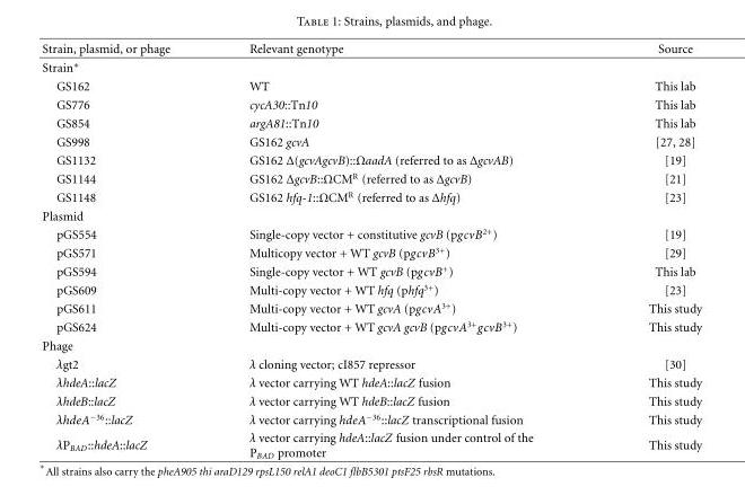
<table><thead><tr><td>Strain, plasmid, or phage</td><td>Relevant genotype</td><td>Source</td></tr></thead><tbody><tr><td colspan="3">Strain∗</td></tr><tr><td>GS162</td><td>WT</td><td>This lab</td></tr><tr><td>GS776</td><td>cycA30::Tn10</td><td>This lab</td></tr><tr><td>GS854</td><td>argA81::Tn10</td><td>This lab</td></tr><tr><td>GS998</td><td>GS162 gcvA</td><td>[27, 28]</td></tr><tr><td>GS1132</td><td>GS162 Δ(gcvAgcvB)::ΩaadA (referred to as ΔgcvAB)</td><td>[19]</td></tr><tr><td>GS1144</td><td>GS162 ΔgcvB::ΩCM<sup>R</sup> (referred to as ΔgcvB)</td><td>[21]</td></tr><tr><td>GS1148</td><td>GS162 hfq-1::ΩCM<sup>R</sup> (referred to as Δhfq)</td><td>[23]</td></tr><tr><td colspan="3">Plasmid</td></tr><tr><td>pGS554</td><td>Single-copy vector + constitutive gcvB (pgcvB<sup>2+</sup>)</td><td>[19]</td></tr><tr><td>pGS571</td><td>Multicopy vector + WT gcvB (pgcvB<sup>3+</sup>)</td><td>[29]</td></tr><tr><td>pGS594</td><td>Single-copy vector + WT gcvB (pgcvB<sup>+</sup>)</td><td>This lab</td></tr><tr><td>pGS609</td><td>Multi-copy vector + WT hfq (phfq<sup>3+</sup>)</td><td>[23]</td></tr><tr><td>pGS611</td><td>Multi-copy vector + WT gcvA (pgcvA<sup>3+</sup>)</td><td>This study</td></tr><tr><td>pGS624</td><td>Multi-copy vector + WT gcvA gcvB (pgcvA<sup>3+</sup>gcvB<sup>3+</sup>)</td><td>This study</td></tr><tr><td colspan="3">Phage</td></tr><tr><td>λgt2</td><td>λ cloning vector; cI857 repressor</td><td>[30]</td></tr><tr><td>λhdeA::lacZ</td><td>λ vector carrying WT hdeA::lacZ fusion</td><td>This study</td></tr><tr><td>λhdeB::lacZ</td><td>λ vector carrying WT hdeB::lacZ fusion</td><td>This study</td></tr><tr><td>λhdeA<sup>−36</sup>::lacZ</td><td>λ vector carrying hdeA<sup>−36</sup>::lacZ transcriptional fusion</td><td>This study</td></tr><tr><td>λP<sub>BAD</sub>::hdeA::lacZ</td><td>λ vector carrying hdeA::lacZ fusion under control of the P<sub>BAD</sub> promoter</td><td>This study</td></tr></tbody></table>